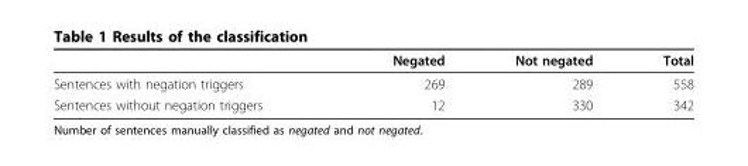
<table><thead><tr><td></td><td>Negated</td><td>Not negated</td><td>Total</td></tr></thead><tbody><tr><td>Sentences with negation triggers</td><td>269</td><td>289</td><td>558</td></tr><tr><td>Sentences without negation triggers</td><td>12</td><td>330</td><td>342</td></tr></tbody></table>